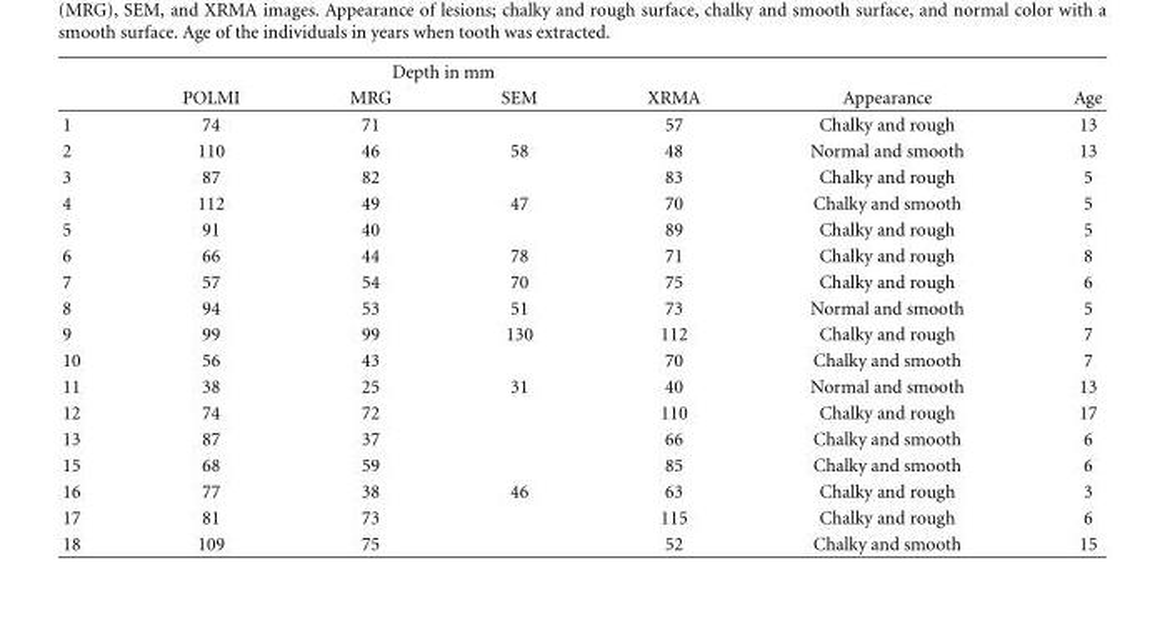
<table><thead><tr><td rowspan="2"></td><td colspan="4">Depth in mm</td><td rowspan="2">Appearance</td><td rowspan="2">Age</td></tr><tr><td>POLMI</td><td>MRG</td><td>SEM</td><td>XRMA</td></tr></thead><tbody><tr><td>1</td><td>74</td><td>71</td><td></td><td>57</td><td>Chalky and rough</td><td>13</td></tr><tr><td>2</td><td>110</td><td>46</td><td>58</td><td>48</td><td>Normal and smooth</td><td>13</td></tr><tr><td>3</td><td>87</td><td>82</td><td></td><td>83</td><td>Chalky and rough</td><td>5</td></tr><tr><td>4</td><td>112</td><td>49</td><td>47</td><td>70</td><td>Chalky and smooth</td><td>5</td></tr><tr><td>5</td><td>91</td><td>40</td><td></td><td>89</td><td>Chalky and rough</td><td>5</td></tr><tr><td>6</td><td>66</td><td>44</td><td>78</td><td>71</td><td>Chalky and rough</td><td>8</td></tr><tr><td>7</td><td>57</td><td>54</td><td>70</td><td>75</td><td>Chalky and rough</td><td>6</td></tr><tr><td>8</td><td>94</td><td>53</td><td>51</td><td>73</td><td>Normal and smooth</td><td>5</td></tr><tr><td>9</td><td>99</td><td>99</td><td>130</td><td>112</td><td>Chalky and rough</td><td>7</td></tr><tr><td>10</td><td>56</td><td>43</td><td></td><td>70</td><td>Chalky and smooth</td><td>7</td></tr><tr><td>11</td><td>38</td><td>25</td><td>31</td><td>40</td><td>Normal and smooth</td><td>13</td></tr><tr><td>12</td><td>74</td><td>72</td><td></td><td>110</td><td>Chalky and rough</td><td>17</td></tr><tr><td>13</td><td>87</td><td>37</td><td></td><td>66</td><td>Chalky and smooth</td><td>6</td></tr><tr><td>15</td><td>68</td><td>59</td><td></td><td>85</td><td>Chalky and smooth</td><td>6</td></tr><tr><td>16</td><td>77</td><td>38</td><td>46</td><td>63</td><td>Chalky and rough</td><td>3</td></tr><tr><td>17</td><td>81</td><td>73</td><td></td><td>115</td><td>Chalky and rough</td><td>6</td></tr><tr><td>18</td><td>109</td><td>75</td><td></td><td>52</td><td>Chalky and smooth</td><td>15</td></tr></tbody></table>